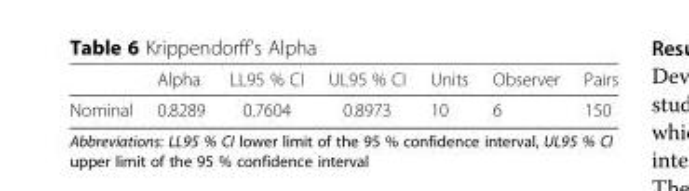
<table><thead><tr><td></td><td>Alpha</td><td>LL95 % CI</td><td>UL95 % CI</td><td>Units</td><td>Observer</td><td>Pairs</td></tr></thead><tbody><tr><td>Nominal</td><td>0.8289</td><td>0.7604</td><td>0.8973</td><td>10</td><td>6</td><td>150</td></tr></tbody></table>